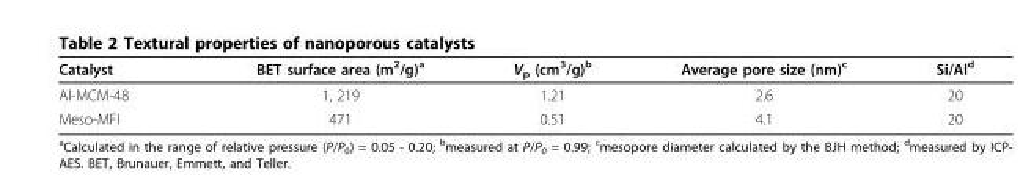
<table><thead><tr><td>Catalyst</td><td>BET surface area (m<sup>2</sup>/g)<sup>a</sup></td><td>V<sub>p</sub> (cm<sup>3</sup>/g)<sup>b</sup></td><td>Average pore size (nm)<sup>c</sup></td><td>Si/Al<sup>d</sup></td></tr></thead><tbody><tr><td>Al-MCM-48</td><td>1, 219</td><td>1.21</td><td>2.6</td><td>20</td></tr><tr><td>Meso-MFI</td><td>471</td><td>0.51</td><td>4.1</td><td>20</td></tr></tbody></table>